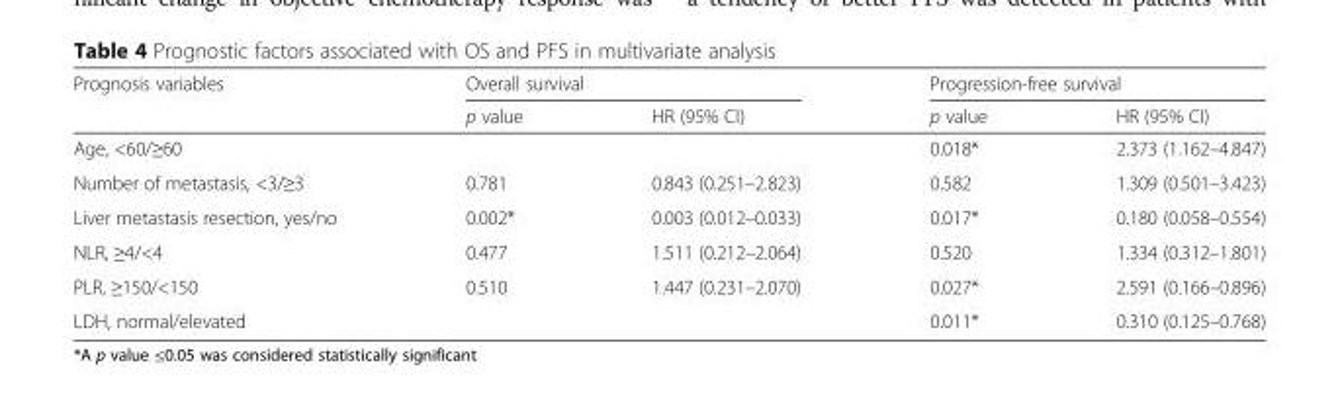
<table><thead><tr><td rowspan="2">Prognosis variables</td><td colspan="2">Overall survival</td><td colspan="2">Progression-free survival</td></tr><tr><td>p value</td><td>HR (95% CI)</td><td>p value</td><td>HR (95% CI)</td></tr></thead><tbody><tr><td>Age, &lt;60/≥60</td><td></td><td></td><td>0.018*</td><td>2.373 (1.162–4.847)</td></tr><tr><td>Number of metastasis, &lt;3/≥3</td><td>0.781</td><td>0.843 (0.251–2.823)</td><td>0.582</td><td>1.309 (0.501–3.423)</td></tr><tr><td>Liver metastasis resection, yes/no</td><td>0.002*</td><td>0.003 (0.012–0.033)</td><td>0.017*</td><td>0.180 (0.058–0.554)</td></tr><tr><td>NLR, ≥4/&lt;4</td><td>0.477</td><td>1.511 (0.212–2.064)</td><td>0.520</td><td>1.334 (0.312–1.801)</td></tr><tr><td>PLR, ≥150/&lt;150</td><td>0.510</td><td>1.447 (0.231–2.070)</td><td>0.027*</td><td>2.591 (0.166–0.896)</td></tr><tr><td>LDH, normal/elevated</td><td></td><td></td><td>0.011*</td><td>0.310 (0.125–0.768)</td></tr></tbody></table>